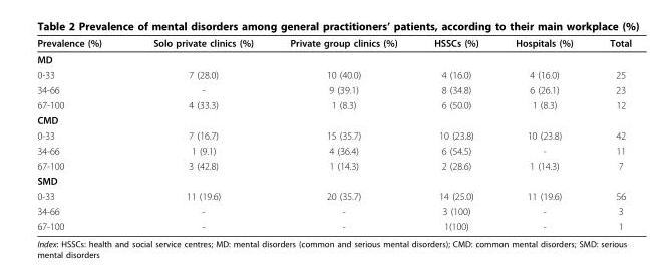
<table><thead><tr><td>Prevalence (%)</td><td>Solo private clinics (%)</td><td>Private group clinics (%)</td><td>HSSCs (%)</td><td>Hospitals (%)</td><td>Total</td></tr></thead><tbody><tr><td colspan="6">MD</td></tr><tr><td>0-33</td><td>7 (28.0)</td><td>10 (40.0)</td><td>4 (16.0)</td><td>4 (16.0)</td><td>25</td></tr><tr><td>34-66</td><td>-</td><td>9 (39.1)</td><td>8 (34.8)</td><td>6 (26.1)</td><td>23</td></tr><tr><td>67-100</td><td>4 (33.3)</td><td>1 (8.3)</td><td>6 (50.0)</td><td>1 (8.3)</td><td>12</td></tr><tr><td colspan="6">CMD</td></tr><tr><td>0-33</td><td>7 (16.7)</td><td>15 (35.7)</td><td>10 (23.8)</td><td>10 (23.8)</td><td>42</td></tr><tr><td>34-66</td><td>1 (9.1)</td><td>4 (36.4)</td><td>6 (54.5)</td><td>-</td><td>11</td></tr><tr><td>67-100</td><td>3 (42.8)</td><td>1 (14.3)</td><td>2 (28.6)</td><td>1 (14.3)</td><td>7</td></tr><tr><td colspan="6">SMD</td></tr><tr><td>0-33</td><td>11 (19.6)</td><td>20 (35.7)</td><td>14 (25.0)</td><td>11 (19.6)</td><td>56</td></tr><tr><td>34-66</td><td>-</td><td>-</td><td>3 (100)</td><td>-</td><td>3</td></tr><tr><td>67-100</td><td>-</td><td>-</td><td>1(100)</td><td>-</td><td>1</td></tr></tbody></table>